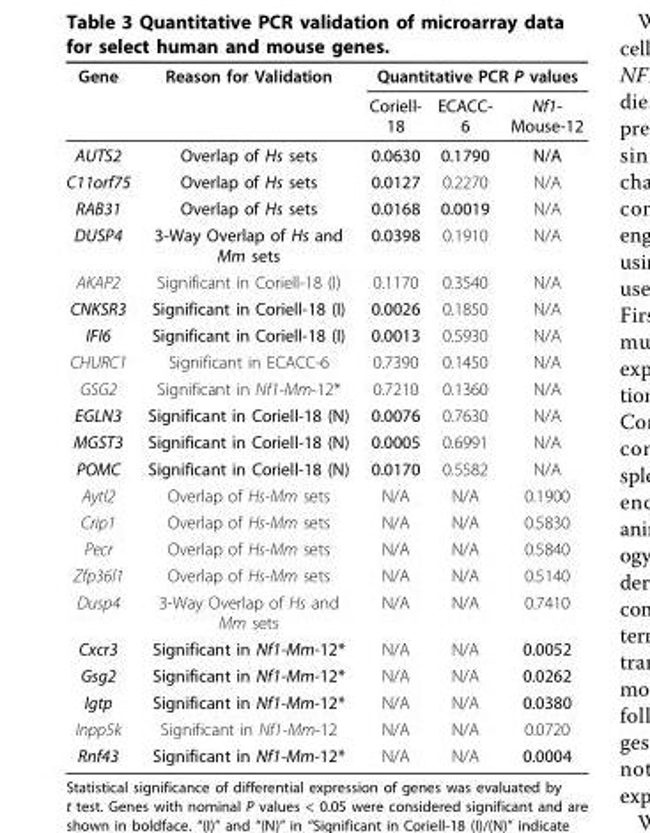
<table><thead><tr><td rowspan="2">Gene</td><td rowspan="2">Reason for Validation</td><td colspan="3">Quantitative PCR P values</td></tr><tr><td>Coriell- 18</td><td>ECACC- 6</td><td>Nf1- Mouse-12</td></tr></thead><tbody><tr><td>AUTS2</td><td>Overlap of Hs sets</td><td>0.0630</td><td>0.1790</td><td>N/A</td></tr><tr><td>C11orf75</td><td>Overlap of Hs sets</td><td>0.0127</td><td>0.2270</td><td>N/A</td></tr><tr><td>RAB31</td><td>Overlap of Hs sets</td><td>0.0168</td><td>0.0019</td><td>N/A</td></tr><tr><td>DUSP4</td><td>3-Way Overlap of Hs and Mm sets</td><td>0.0398</td><td>0.1910</td><td>N/A</td></tr><tr><td>AKAP2</td><td>Significant in Coriell-18 (I)</td><td>0.1170</td><td>0.3540</td><td>N/A</td></tr><tr><td>CNKSR3</td><td>Significant in Coriell-18 (I)</td><td>0.0026</td><td>0.1850</td><td>N/A</td></tr><tr><td>IFI6</td><td>Significant in Coriell-18 (I)</td><td>0.0013</td><td>0.5930</td><td>N/A</td></tr><tr><td>CHURC1</td><td>Significant in ECACC-6</td><td>0.7390</td><td>0.1450</td><td>N/A</td></tr><tr><td>GSG2</td><td>Significant in Nf1-Mm-12*</td><td>0.7210</td><td>0.1360</td><td>N/A</td></tr><tr><td>EGLN3</td><td>Significant in Coriell-18 (N)</td><td>0.0076</td><td>0.7630</td><td>N/A</td></tr><tr><td>MGST3</td><td>Significant in Coriell-18 (N)</td><td>0.0005</td><td>0.6991</td><td>N/A</td></tr><tr><td>POMC</td><td>Significant in Coriell-18 (N)</td><td>0.0170</td><td>0.5582</td><td>N/A</td></tr><tr><td>Aytl2</td><td>Overlap of Hs-Mm sets</td><td>N/A</td><td>N/A</td><td>0.1900</td></tr><tr><td>Crip1</td><td>Overlap of Hs-Mm sets</td><td>N/A</td><td>N/A</td><td>0.5830</td></tr><tr><td>Pecr</td><td>Overlap of Hs-Mm sets</td><td>N/A</td><td>N/A</td><td>0.5840</td></tr><tr><td>Zfp36l1</td><td>Overlap of Hs-Mm sets</td><td>N/A</td><td>N/A</td><td>0.5140</td></tr><tr><td>Dusp4</td><td>3-Way Overlap of Hs and Mm sets</td><td>N/A</td><td>N/A</td><td>0.7410</td></tr><tr><td>Cxcr3</td><td>Significant in Nf1-Mm-12*</td><td>N/A</td><td>N/A</td><td>0.0052</td></tr><tr><td>Gsg2</td><td>Significant in Nf1-Mm-12*</td><td>N/A</td><td>N/A</td><td>0.0262</td></tr><tr><td>Igtp</td><td>Significant in Nf1-Mm-12*</td><td>N/A</td><td>N/A</td><td>0.0380</td></tr><tr><td>Inpp5k</td><td>Significant in Nf1-Mm-12</td><td>N/A</td><td>N/A</td><td>0.0720</td></tr><tr><td>Rnf43</td><td>Significant in Nf1-Mm-12*</td><td>N/A</td><td>N/A</td><td>0.0004</td></tr></tbody></table>